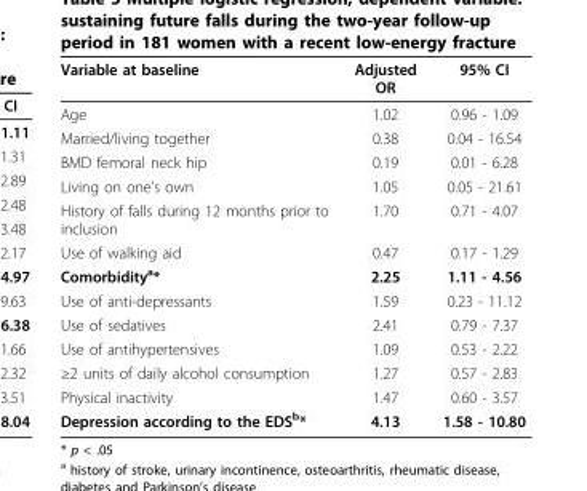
<table><thead><tr><td>Variable at baseline</td><td>Adjusted OR</td><td>95% CI</td></tr></thead><tbody><tr><td>Age</td><td>1.02</td><td>0.96 - 1.09</td></tr><tr><td>Married/living together</td><td>0.38</td><td>0.04 - 16.54</td></tr><tr><td>BMD femoral neck hip</td><td>0.19</td><td>0.01 - 6.28</td></tr><tr><td>Living on one’s own</td><td>1.05</td><td>0.05 - 21.61</td></tr><tr><td>History of falls during 12 months prior to inclusion</td><td>1.70</td><td>0.71 - 4.07</td></tr><tr><td>Use of walking aid</td><td>0.47</td><td>0.17 - 1.29</td></tr><tr><td>Comorbidity<sup>a</sup>*</td><td>2.25</td><td>1.11 - 4.56</td></tr><tr><td>Use of anti-depressants</td><td>1.59</td><td>0.23 - 11.12</td></tr><tr><td>Use of sedatives</td><td>2.41</td><td>0.79 - 7.37</td></tr><tr><td>Use of antihypertensives</td><td>1.09</td><td>0.53 - 2.22</td></tr><tr><td>≥2 units of daily alcohol consumption</td><td>1.27</td><td>0.57 - 2.83</td></tr><tr><td>Physical inactivity</td><td>1.47</td><td>0.60 - 3.57</td></tr><tr><td>Depression according to the EDS<sup>b</sup>*</td><td>4.13</td><td>1.58 - 10.80</td></tr></tbody></table>